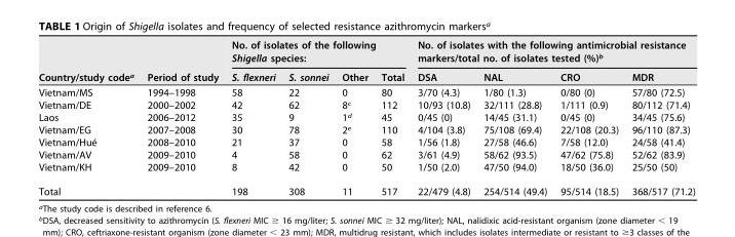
<table><thead><tr><td rowspan="2">Country/study code<sup>a</sup></td><td rowspan="2">Period of study</td><td colspan="4">No. of isolates of the following Shigella species:</td><td colspan="4">No. of isolates with the following antimicrobial resistance markers/total no. of isolates tested (%)<sup>b</sup></td></tr><tr><td>S. flexneri</td><td>S. sonnei</td><td>Other</td><td>Total</td><td>DSA</td><td>NAL</td><td>CRO</td><td>MDR</td></tr></thead><tbody><tr><td>Vietnam/MS</td><td>1994–1998</td><td>58</td><td>22</td><td>0</td><td>80</td><td>3/70 (4.3)</td><td>1/80 (1.3)</td><td>0/80 (0)</td><td>57/80 (72.5)</td></tr><tr><td>Vietnam/DE</td><td>2000–2002</td><td>42</td><td>62</td><td>8<sup>c</sup></td><td>112</td><td>10/93 (10.8)</td><td>32/111 (28.8)</td><td>1/111 (0.9)</td><td>80/112 (71.4)</td></tr><tr><td>Laos</td><td>2006–2012</td><td>35</td><td>9</td><td>1<sup>d</sup></td><td>45</td><td>0/45 (0)</td><td>14/45 (31.1)</td><td>0/45 (0)</td><td>34/45 (75.6)</td></tr><tr><td>Vietnam/EG</td><td>2007–2008</td><td>30</td><td>78</td><td>2<sup>e</sup></td><td>110</td><td>4/104 (3.8)</td><td>75/108 (69.4)</td><td>22/108 (20.3)</td><td>96/110 (87.3)</td></tr><tr><td>Vietnam/Hué</td><td>2008–2010</td><td>21</td><td>37</td><td>0</td><td>58</td><td>1/56 (1.8)</td><td>27/58 (46.6)</td><td>7/58 (12.0)</td><td>24/58 (41.4)</td></tr><tr><td>Vietnam/AV</td><td>2009–2010</td><td>4</td><td>58</td><td>0</td><td>62</td><td>3/61 (4.9)</td><td>58/62 (93.5)</td><td>47/62 (75.8)</td><td>52/62 (83.9)</td></tr><tr><td>Vietnam/KH</td><td>2009–2010</td><td>8</td><td>42</td><td>0</td><td>50</td><td>1/50 (2.0)</td><td>47/50 (94.0)</td><td>18/50 (36.0)</td><td>25/50 (50)</td></tr><tr><td>Total</td><td></td><td>198</td><td>308</td><td>11</td><td>517</td><td>22/479 (4.8)</td><td>254/514 (49.4)</td><td>95/514 (18.5)</td><td>368/517 (71.2)</td></tr></tbody></table>